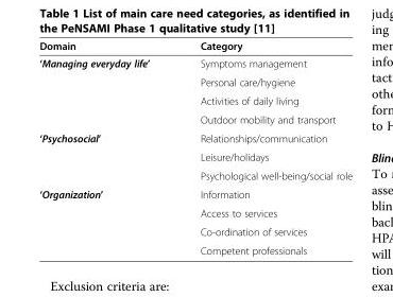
<table><thead><tr><td>Domain</td><td>Category</td></tr></thead><tbody><tr><td rowspan="4">‘Managing everyday life’</td><td>Symptoms management</td></tr><tr><td>Personal care/hygiene</td></tr><tr><td>Activities of daily living</td></tr><tr><td>Outdoor mobility and transport</td></tr><tr><td rowspan="3">‘Psychosocial’</td><td>Relationships/communication</td></tr><tr><td>Leisure/holidays</td></tr><tr><td>Psychological well-being/social role</td></tr><tr><td rowspan="4">‘Organization’</td><td>Information</td></tr><tr><td>Access to services</td></tr><tr><td>Co-ordination of services</td></tr><tr><td>Competent professionals</td></tr></tbody></table>